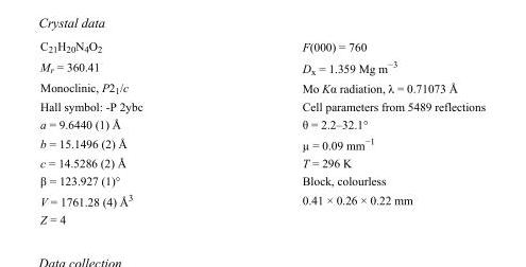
<table><tbody><tr><td>C<sub>21</sub>H<sub>20</sub>N<sub>4</sub>O<sub>2</sub></td><td>F(000) = 760</td></tr><tr><td>M<sub>r</sub> = 360.41</td><td>D<sub>x</sub> = 1.359 Mg m<sup>−3</sup></td></tr><tr><td>Monoclinic, P2<sub>1</sub>/c</td><td>Mo Kα radiation, λ = 0.71073 Å</td></tr><tr><td>Hall symbol: -P 2ybc</td><td>Cell parameters from 5489 reflections</td></tr><tr><td>a = 9.6440 (1) Å</td><td>θ = 2.2–32.1°</td></tr><tr><td>b = 15.1496 (2) Å</td><td>µ = 0.09 mm<sup>−1</sup></td></tr><tr><td>c = 14.5286 (2) Å</td><td>T = 296 K</td></tr><tr><td>β = 123.927 (1)°</td><td>Block, colourless</td></tr><tr><td>V = 1761.28 (4) Å<sup>3</sup></td><td>0.41 × 0.26 × 0.22 mm</td></tr><tr><td>Z = 4</td><td></td></tr></tbody></table>